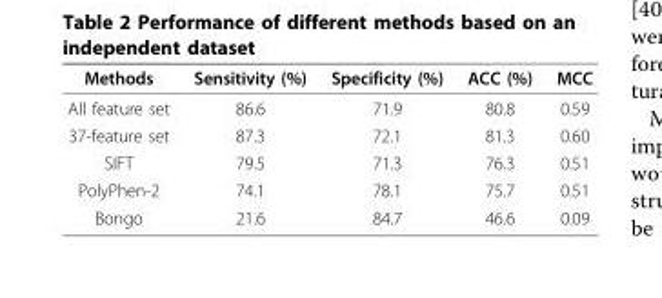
<table><thead><tr><td>Methods</td><td>Sensitivity (%)</td><td>Specificity (%)</td><td>ACC (%)</td><td>MCC</td></tr></thead><tbody><tr><td>All feature set</td><td>86.6</td><td>71.9</td><td>80.8</td><td>0.59</td></tr><tr><td>37-feature set</td><td>87.3</td><td>72.1</td><td>81.3</td><td>0.60</td></tr><tr><td>SIFT</td><td>79.5</td><td>71.3</td><td>76.3</td><td>0.51</td></tr><tr><td>PolyPhen-2</td><td>74.1</td><td>78.1</td><td>75.7</td><td>0.51</td></tr><tr><td>Bongo</td><td>21.6</td><td>84.7</td><td>46.6</td><td>0.09</td></tr></tbody></table>